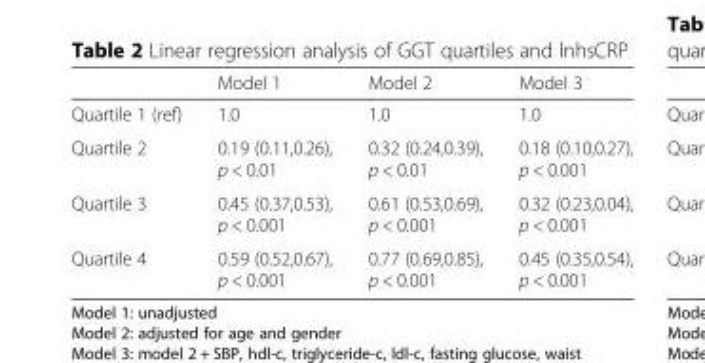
<table><thead><tr><td></td><td>Model 1</td><td>Model 2</td><td>Model 3</td></tr></thead><tbody><tr><td>Quartile 1 (ref)</td><td>1.0</td><td>1.0</td><td>1.0</td></tr><tr><td>Quartile 2</td><td>0.19 (0.11,0.26), p &lt; 0.01</td><td>0.32 (0.24,0.39), p &lt; 0.01</td><td>0.18 (0.10,0.27), p &lt; 0.001</td></tr><tr><td>Quartile 3</td><td>0.45 (0.37,0.53), p &lt; 0.001</td><td>0.61 (0.53,0.69), p &lt; 0.001</td><td>0.32 (0.23,0.04), p &lt; 0.001</td></tr><tr><td>Quartile 4</td><td>0.59 (0.52,0.67), p &lt; 0.001</td><td>0.77 (0.69,0.85), p &lt; 0.001</td><td>0.45 (0.35,0.54), p &lt; 0.001</td></tr></tbody></table>